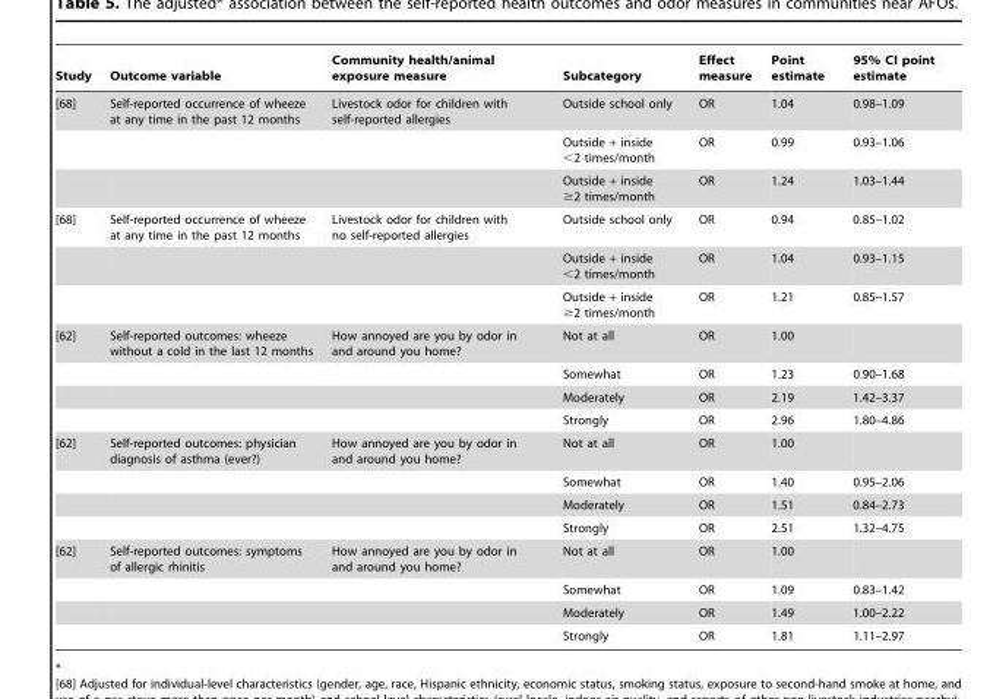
<table><thead><tr><td>Study</td><td>Outcome variable</td><td>Community health/animal exposure measure</td><td>Subcategory</td><td>Effect measure</td><td>Point estimate</td><td>95% CI point estimate</td></tr></thead><tbody><tr><td rowspan="3">[68]</td><td>Self-reported occurrence of wheeze at any time in the past 12 months</td><td>Livestock odor for children with self-reported allergies</td><td>Outside school only</td><td>OR</td><td>1.04</td><td>0.98–1.09</td></tr><tr><td></td><td></td><td>Outside + inside &lt;2 times/month</td><td>OR</td><td>0.99</td><td>0.93–1.06</td></tr><tr><td></td><td></td><td>Outside + inside ≥2 times/month</td><td>OR</td><td>1.24</td><td>1.03–1.44</td></tr><tr><td rowspan="3">[68]</td><td>Self-reported occurrence of wheeze at any time in the past 12 months</td><td>Livestock odor for children with no self-reported allergies</td><td>Outside school only</td><td>OR</td><td>0.94</td><td>0.85–1.02</td></tr><tr><td></td><td></td><td>Outside + inside &lt;2 times/month</td><td>OR</td><td>1.04</td><td>0.93–1.15</td></tr><tr><td></td><td></td><td>Outside + inside ≥2 times/month</td><td>OR</td><td>1.21</td><td>0.85–1.57</td></tr><tr><td rowspan="4">[62]</td><td>Self-reported outcomes: wheeze without a cold in the last 12 months</td><td>How annoyed are you by odor in and around you home?</td><td>Not at all</td><td>OR</td><td>1.00</td><td></td></tr><tr><td></td><td></td><td>Somewhat</td><td>OR</td><td>1.23</td><td>0.90–1.68</td></tr><tr><td></td><td></td><td>Moderately</td><td>OR</td><td>2.19</td><td>1.42–3.37</td></tr><tr><td></td><td></td><td>Strongly</td><td>OR</td><td>2.96</td><td>1.80–4.86</td></tr><tr><td rowspan="4">[62]</td><td>Self-reported outcomes: physician diagnosis of asthma (ever?)</td><td>How annoyed are you by odor in and around you home?</td><td>Not at all</td><td>OR</td><td>1.00</td><td></td></tr><tr><td></td><td></td><td>Somewhat</td><td>OR</td><td>1.40</td><td>0.95–2.06</td></tr><tr><td></td><td></td><td>Moderately</td><td>OR</td><td>1.51</td><td>0.84–2.73</td></tr><tr><td></td><td></td><td>Strongly</td><td>OR</td><td>2.51</td><td>1.32–4.75</td></tr><tr><td rowspan="4">[62]</td><td>Self-reported outcomes: symptoms of allergic rhinitis</td><td>How annoyed are you by odor in and around you home?</td><td>Not at all</td><td>OR</td><td>1.00</td><td></td></tr><tr><td></td><td></td><td>Somewhat</td><td>OR</td><td>1.09</td><td>0.83–1.42</td></tr><tr><td></td><td></td><td>Moderately</td><td>OR</td><td>1.49</td><td>1.00–2.22</td></tr><tr><td></td><td></td><td>Strongly</td><td>OR</td><td>1.81</td><td>1.11–2.97</td></tr></tbody></table>